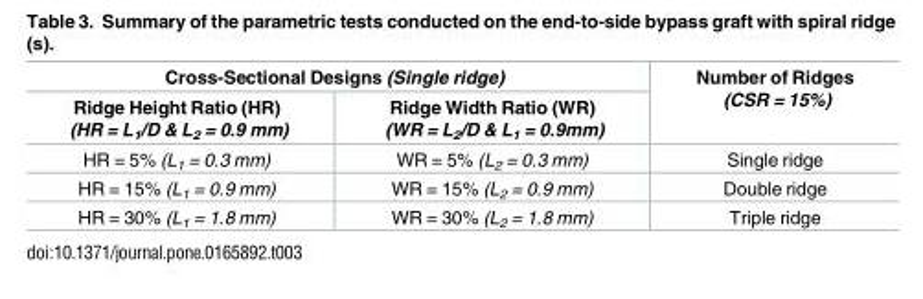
<table><thead><tr><td colspan="2">Cross-Sectional Designs (Single ridge)</td><td rowspan="2">Number of Ridges (CSR = 15%)</td></tr><tr><td>Ridge Height Ratio (HR) (HR = L<sub>1</sub>/D &amp; L<sub>2</sub> = 0.9 mm)</td><td>Ridge Width Ratio (WR) (WR = L<sub>2</sub>/D &amp; L<sub>1</sub> = 0.9mm)</td></tr></thead><tbody><tr><td>HR = 5% (L<sub>1</sub> = 0.3 mm)</td><td>WR = 5% (L<sub>2</sub> = 0.3 mm)</td><td>Single ridge</td></tr><tr><td>HR = 15% (L<sub>1</sub> = 0.9 mm)</td><td>WR = 15% (L<sub>2</sub> = 0.9 mm)</td><td>Double ridge</td></tr><tr><td>HR = 30% (L<sub>1</sub> = 1.8 mm)</td><td>WR = 30% (L<sub>2</sub> = 1.8 mm)</td><td>Triple ridge</td></tr></tbody></table>